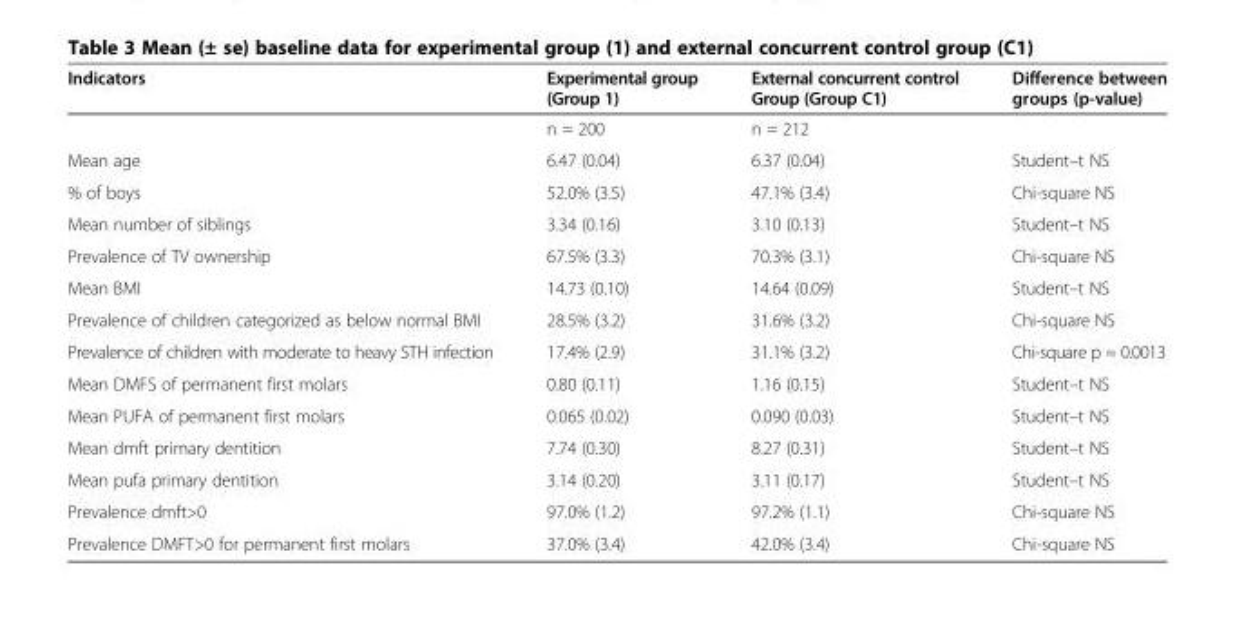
<table><thead><tr><td>Indicators</td><td>Experimental group (Group 1)</td><td>External concurrent control Group (Group C1)</td><td>Difference between groups (p-value)</td></tr></thead><tbody><tr><td></td><td>n = 200</td><td>n = 212</td><td></td></tr><tr><td>Mean age</td><td>6.47 (0.04)</td><td>6.37 (0.04)</td><td>Student–t NS</td></tr><tr><td>% of boys</td><td>52.0% (3.5)</td><td>47.1% (3.4)</td><td>Chi-square NS</td></tr><tr><td>Mean number of siblings</td><td>3.34 (0.16)</td><td>3.10 (0.13)</td><td>Student–t NS</td></tr><tr><td>Prevalence of TV ownership</td><td>67.5% (3.3)</td><td>70.3% (3.1)</td><td>Chi-square NS</td></tr><tr><td>Mean BMI</td><td>14.73 (0.10)</td><td>14.64 (0.09)</td><td>Student–t NS</td></tr><tr><td>Prevalence of children categorized as below normal BMI</td><td>28.5% (3.2)</td><td>31.6% (3.2)</td><td>Chi-square NS</td></tr><tr><td>Prevalence of children with moderate to heavy STH infection</td><td>17.4% (2.9)</td><td>31.1% (3.2)</td><td>Chi-square p = 0.0013</td></tr><tr><td>Mean DMFS of permanent first molars</td><td>0.80 (0.11)</td><td>1.16 (0.15)</td><td>Student–t NS</td></tr><tr><td>Mean PUFA of permanent first molars</td><td>0.065 (0.02)</td><td>0.090 (0.03)</td><td>Student–t NS</td></tr><tr><td>Mean dmft primary dentition</td><td>7.74 (0.30)</td><td>8.27 (0.31)</td><td>Student–t NS</td></tr><tr><td>Mean pufa primary dentition</td><td>3.14 (0.20)</td><td>3.11 (0.17)</td><td>Student–t NS</td></tr><tr><td>Prevalence dmft&gt;0</td><td>97.0% (1.2)</td><td>97.2% (1.1)</td><td>Chi-square NS</td></tr><tr><td>Prevalence DMFT&gt;0 for permanent first molars</td><td>37.0% (3.4)</td><td>42.0% (3.4)</td><td>Chi-square NS</td></tr></tbody></table>